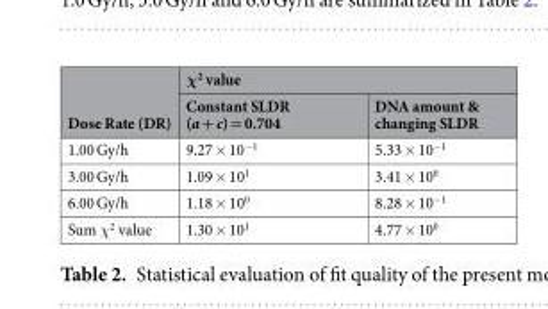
<table><thead><tr><td rowspan="2">Dose Rate (DR)</td><td colspan="2">χ<sup>2</sup> value</td></tr><tr><td>Constant SLDR (a + c) = 0.704</td><td>DNA amount &amp; changing SLDR</td></tr></thead><tbody><tr><td>1.00 Gy/h</td><td>9.27 × 10<sup>−1</sup></td><td>5.33 × 10<sup>−1</sup></td></tr><tr><td>3.00 Gy/h</td><td>1.09 × 10<sup>1</sup></td><td>3.41 × 10<sup>0</sup></td></tr><tr><td>6.00 Gy/h</td><td>1.18 × 10<sup>0</sup></td><td>8.28 × 10<sup>−1</sup></td></tr><tr><td>Sum χ<sup>2</sup> value</td><td>1.30 × 10<sup>1</sup></td><td>4.77 × 10<sup>0</sup></td></tr></tbody></table>